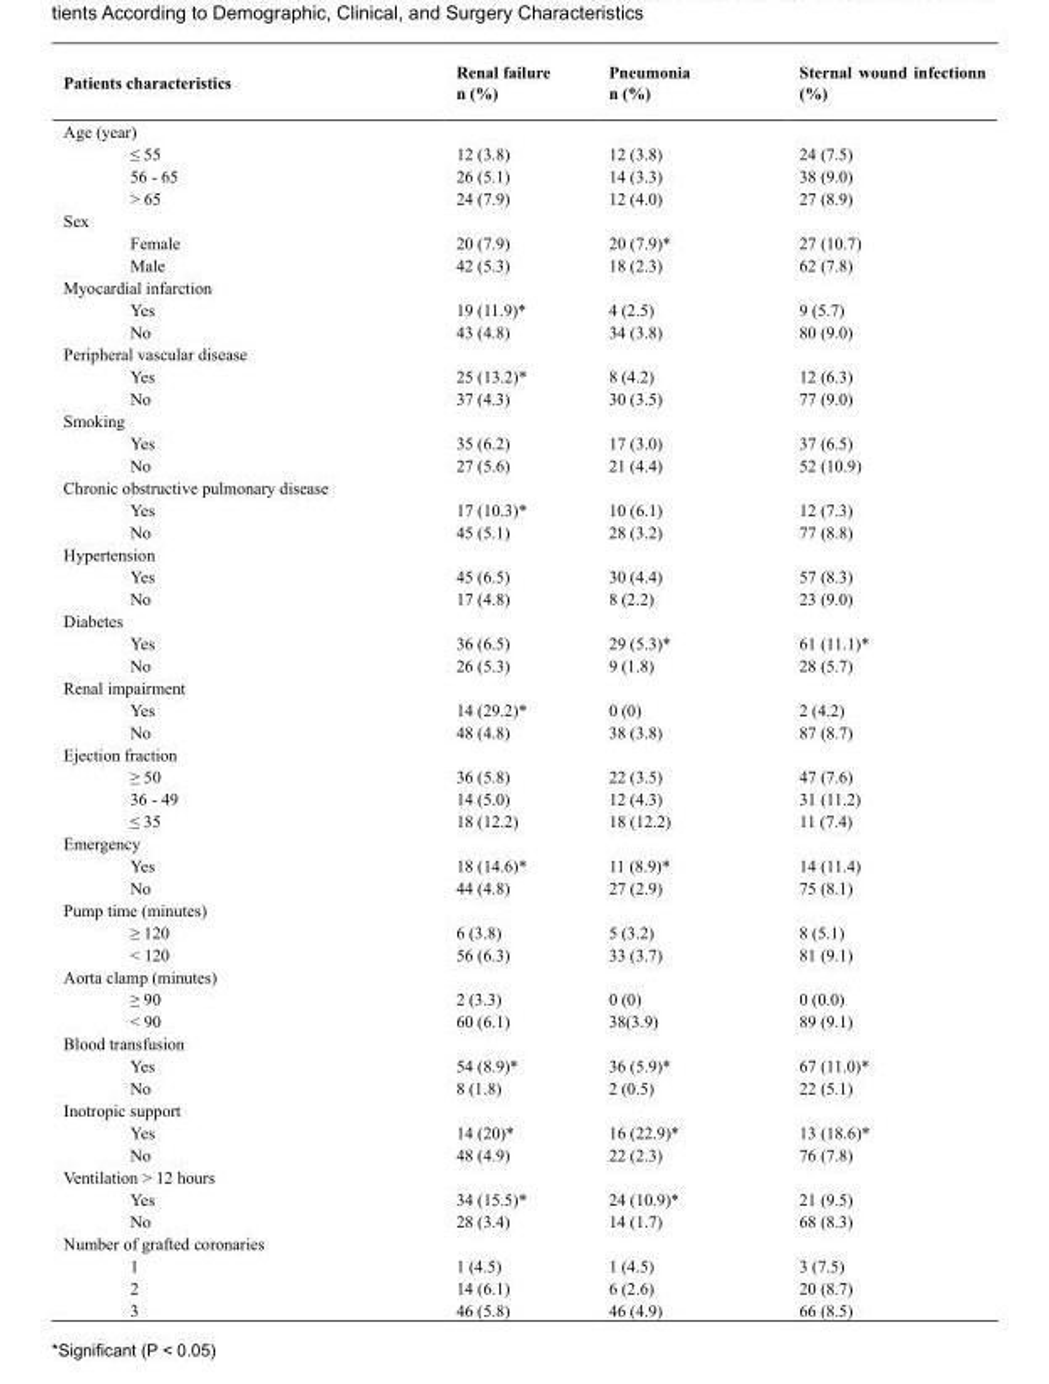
<table><thead><tr><td>Patients characteristics</td><td>Renal failure n (%)</td><td>Pneumonia n (%)</td><td>Sternal wound infectionn (%)</td></tr></thead><tbody><tr><td colspan="4">Age (year)</td></tr><tr><td>≤ 55</td><td>12 (3.8)</td><td>12 (3.8)</td><td>24 (7.5)</td></tr><tr><td>56 - 65</td><td>26 (5.1)</td><td>14 (3.3)</td><td>38 (9.0)</td></tr><tr><td>&gt; 65</td><td>24 (7.9)</td><td>12 (4.0)</td><td>27 (8.9)</td></tr><tr><td colspan="4">Sex</td></tr><tr><td>Female</td><td>20 (7.9)</td><td>20 (7.9)*</td><td>27 (10.7)</td></tr><tr><td>Male</td><td>42 (5.3)</td><td>18 (2.3)</td><td>62 (7.8)</td></tr><tr><td colspan="4">Myocardial infarction</td></tr><tr><td>Yes</td><td>19 (11.9)*</td><td>4 (2.5)</td><td>9 (5.7)</td></tr><tr><td>No</td><td>43 (4.8)</td><td>34 (3.8)</td><td>80 (9.0)</td></tr><tr><td colspan="4">Peripheral vascular disease</td></tr><tr><td>Yes</td><td>25 (13.2)*</td><td>8 (4.2)</td><td>12 (6.3)</td></tr><tr><td>No</td><td>37 (4.3)</td><td>30 (3.5)</td><td>77 (9.0)</td></tr><tr><td colspan="4">Smoking</td></tr><tr><td>Yes</td><td>35 (6.2)</td><td>17 (3.0)</td><td>37 (6.5)</td></tr><tr><td>No</td><td>27 (5.6)</td><td>21 (4.4)</td><td>52 (10.9)</td></tr><tr><td colspan="4">Chronic obstructive pulmonary disease</td></tr><tr><td>Yes</td><td>17 (10.3)*</td><td>10 (6.1)</td><td>12 (7.3)</td></tr><tr><td>No</td><td>45 (5.1)</td><td>28 (3.2)</td><td>77 (8.8)</td></tr><tr><td colspan="4">Hypertension</td></tr><tr><td>Yes</td><td>45 (6.5)</td><td>30 (4.4)</td><td>57 (8.3)</td></tr><tr><td>No</td><td>17 (4.8)</td><td>8 (2.2)</td><td>23 (9.0)</td></tr><tr><td colspan="4">Diabetes</td></tr><tr><td>Yes</td><td>36 (6.5)</td><td>29 (5.3)*</td><td>61 (11.1)*</td></tr><tr><td>No</td><td>26 (5.3)</td><td>9 (1.8)</td><td>28 (5.7)</td></tr><tr><td colspan="4">Renal impairment</td></tr><tr><td>Yes</td><td>14 (29.2)*</td><td>0 (0)</td><td>2 (4.2)</td></tr><tr><td>No</td><td>48 (4.8)</td><td>38 (3.8)</td><td>87 (8.7)</td></tr><tr><td colspan="4">Ejection fraction</td></tr><tr><td>≥ 50</td><td>36 (5.8)</td><td>22 (3.5)</td><td>47 (7.6)</td></tr><tr><td>36 - 49</td><td>14 (5.0)</td><td>12 (4.3)</td><td>31 (11.2)</td></tr><tr><td>≤ 35</td><td>18 (12.2)</td><td>18 (12.2)</td><td>11 (7.4)</td></tr><tr><td colspan="4">Emergency</td></tr><tr><td>Yes</td><td>18 (14.6)*</td><td>11 (8.9)*</td><td>14 (11.4)</td></tr><tr><td>No</td><td>44 (4.8)</td><td>27 (2.9)</td><td>75 (8.1)</td></tr><tr><td colspan="4">Pump time (minutes)</td></tr><tr><td>≥ 120</td><td>6 (3.8)</td><td>5 (3.2)</td><td>8 (5.1)</td></tr><tr><td>&lt; 120</td><td>56 (6.3)</td><td>33 (3.7)</td><td>81 (9.1)</td></tr><tr><td colspan="4">Aorta clamp (minutes)</td></tr><tr><td>≥ 90</td><td>2 (3.3)</td><td>0 (0)</td><td>0 (0.0)</td></tr><tr><td>&lt; 90</td><td>60 (6.1)</td><td>38(3.9)</td><td>89 (9.1)</td></tr><tr><td colspan="4">Blood transfusion</td></tr><tr><td>Yes</td><td>54 (8.9)*</td><td>36 (5.9)*</td><td>67 (11.0)*</td></tr><tr><td>No</td><td>8 (1.8)</td><td>2 (0.5)</td><td>22 (5.1)</td></tr><tr><td colspan="4">Inotropic support</td></tr><tr><td>Yes</td><td>14 (20)*</td><td>16 (22.9)*</td><td>13 (18.6)*</td></tr><tr><td>No</td><td>48 (4.9)</td><td>22 (2.3)</td><td>76 (7.8)</td></tr><tr><td colspan="4">Ventilation &gt; 12 hours</td></tr><tr><td>Yes</td><td>34 (15.5)*</td><td>24 (10.9)*</td><td>21 (9.5)</td></tr><tr><td>No</td><td>28 (3.4)</td><td>14 (1.7)</td><td>68 (8.3)</td></tr><tr><td colspan="4">Number of grafted coronaries</td></tr><tr><td>1</td><td>1 (4.5)</td><td>1 (4.5)</td><td>3 (7.5)</td></tr><tr><td>2</td><td>14 (6.1)</td><td>6 (2.6)</td><td>20 (8.7)</td></tr><tr><td>3</td><td>46 (5.8)</td><td>46 (4.9)</td><td>66 (8.5)</td></tr></tbody></table>